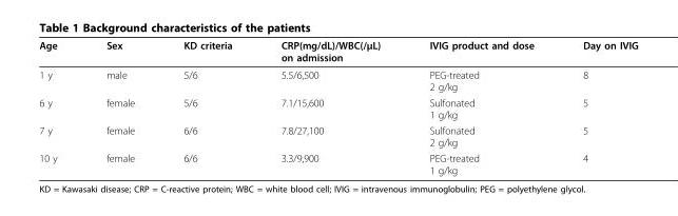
<table><thead><tr><td>Age</td><td>Sex</td><td>KD criteria</td><td>CRP(mg/dL)/WBC(/μL) on admission</td><td>IVIG product and dose</td><td>Day on IVIG</td></tr></thead><tbody><tr><td>1 y</td><td>male</td><td>5/6</td><td>5.5/6,500</td><td>PEG-treated 2 g/kg</td><td>8</td></tr><tr><td>6 y</td><td>female</td><td>5/6</td><td>7.1/15,600</td><td>Sulfonated 1 g/kg</td><td>5</td></tr><tr><td>7 y</td><td>female</td><td>6/6</td><td>7.8/27,100</td><td>Sulfonated 2 g/kg</td><td>5</td></tr><tr><td>10 y</td><td>female</td><td>6/6</td><td>3.3/9,900</td><td>PEG-treated 1 g/kg</td><td>4</td></tr></tbody></table>